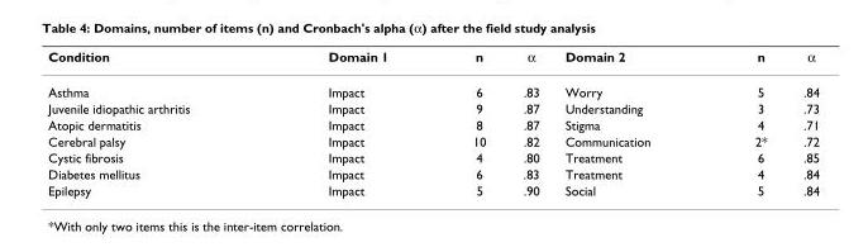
<table><thead><tr><td>Condition</td><td>Domain 1</td><td>n</td><td>α</td><td>Domain 2</td><td>n</td><td>α</td></tr></thead><tbody><tr><td>Asthma</td><td>Impact</td><td>6</td><td>.83</td><td>Worry</td><td>5</td><td>.84</td></tr><tr><td>Juvenile idiopathic arthritis</td><td>Impact</td><td>9</td><td>.87</td><td>Understanding</td><td>3</td><td>.73</td></tr><tr><td>Atopic dermatitis</td><td>Impact</td><td>8</td><td>.87</td><td>Stigma</td><td>4</td><td>.71</td></tr><tr><td>Cerebral palsy</td><td>Impact</td><td>10</td><td>.82</td><td>Communication</td><td>2*</td><td>.72</td></tr><tr><td>Cystic fibrosis</td><td>Impact</td><td>4</td><td>.80</td><td>Treatment</td><td>6</td><td>.85</td></tr><tr><td>Diabetes mellitus</td><td>Impact</td><td>6</td><td>.83</td><td>Treatment</td><td>4</td><td>.84</td></tr><tr><td>Epilepsy</td><td>Impact</td><td>5</td><td>.90</td><td>Social</td><td>5</td><td>.84</td></tr></tbody></table>